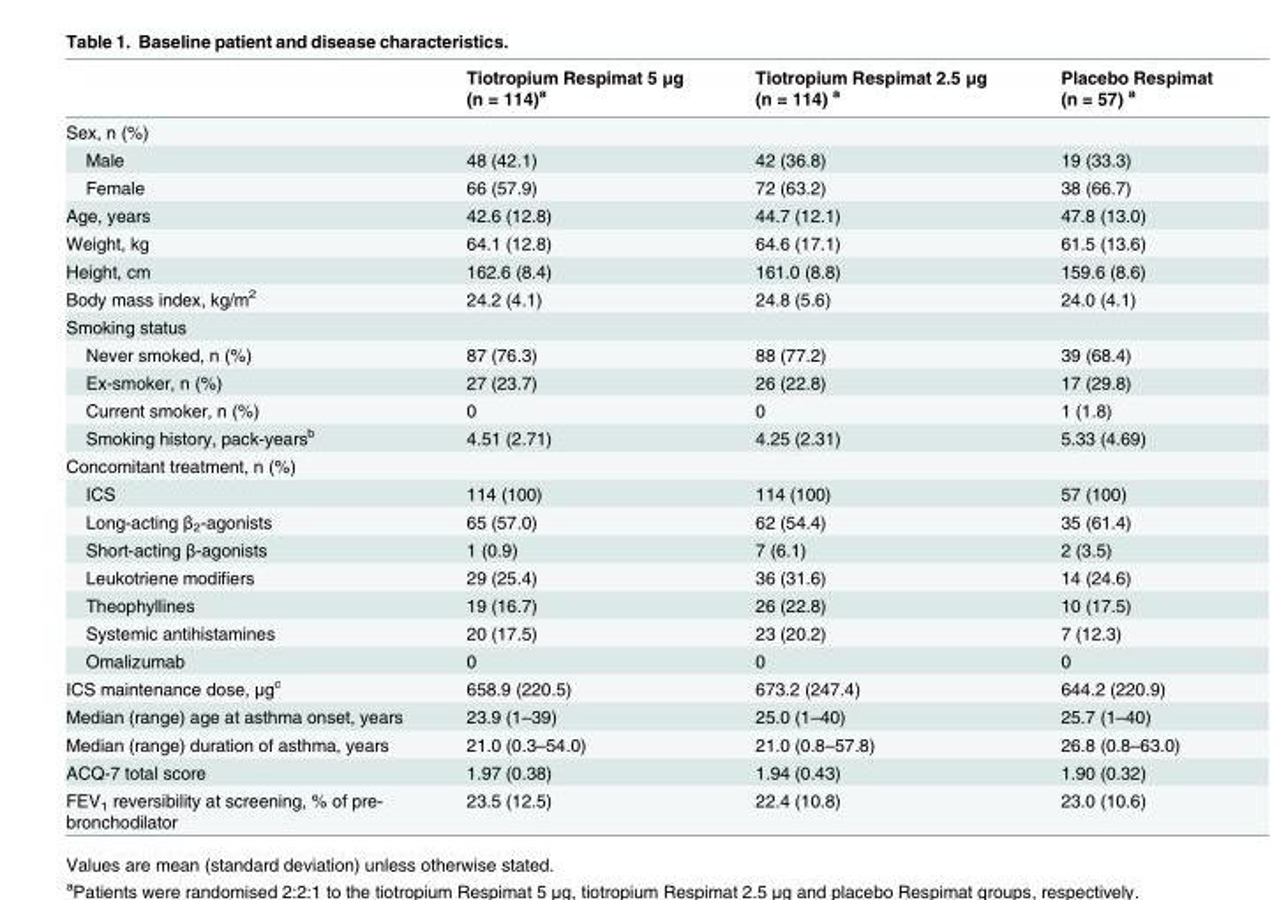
<table><thead><tr><td></td><td>Tiotropium Respimat 5 μg (n = 114)<sup>a</sup></td><td>Tiotropium Respimat 2.5 μg (n = 114) <sup>a</sup></td><td>Placebo Respimat (n = 57) <sup>a</sup></td></tr></thead><tbody><tr><td colspan="4">Sex, n (%)</td></tr><tr><td>Male</td><td>48 (42.1)</td><td>42 (36.8)</td><td>19 (33.3)</td></tr><tr><td>Female</td><td>66 (57.9)</td><td>72 (63.2)</td><td>38 (66.7)</td></tr><tr><td>Age, years</td><td>42.6 (12.8)</td><td>44.7 (12.1)</td><td>47.8 (13.0)</td></tr><tr><td>Weight, kg</td><td>64.1 (12.8)</td><td>64.6 (17.1)</td><td>61.5 (13.6)</td></tr><tr><td>Height, cm</td><td>162.6 (8.4)</td><td>161.0 (8.8)</td><td>159.6 (8.6)</td></tr><tr><td>Body mass index, kg/m<sup>2</sup></td><td>24.2 (4.1)</td><td>24.8 (5.6)</td><td>24.0 (4.1)</td></tr><tr><td colspan="4">Smoking status</td></tr><tr><td>Never smoked, n (%)</td><td>87 (76.3)</td><td>88 (77.2)</td><td>39 (68.4)</td></tr><tr><td>Ex-smoker, n (%)</td><td>27 (23.7)</td><td>26 (22.8)</td><td>17 (29.8)</td></tr><tr><td>Current smoker, n (%)</td><td>0</td><td>0</td><td>1 (1.8)</td></tr><tr><td>Smoking history, pack-years<sup>b</sup></td><td>4.51 (2.71)</td><td>4.25 (2.31)</td><td>5.33 (4.69)</td></tr><tr><td colspan="4">Concomitant treatment, n (%)</td></tr><tr><td>ICS</td><td>114 (100)</td><td>114 (100)</td><td>57 (100)</td></tr><tr><td>Long-acting β<sub>2</sub>-agonists</td><td>65 (57.0)</td><td>62 (54.4)</td><td>35 (61.4)</td></tr><tr><td>Short-acting β-agonists</td><td>1 (0.9)</td><td>7 (6.1)</td><td>2 (3.5)</td></tr><tr><td>Leukotriene modifiers</td><td>29 (25.4)</td><td>36 (31.6)</td><td>14 (24.6)</td></tr><tr><td>Theophyllines</td><td>19 (16.7)</td><td>26 (22.8)</td><td>10 (17.5)</td></tr><tr><td>Systemic antihistamines</td><td>20 (17.5)</td><td>23 (20.2)</td><td>7 (12.3)</td></tr><tr><td>Omalizumab</td><td>0</td><td>0</td><td>0</td></tr><tr><td>ICS maintenance dose, μg<sup>c</sup></td><td>658.9 (220.5)</td><td>673.2 (247.4)</td><td>644.2 (220.9)</td></tr><tr><td>Median (range) age at asthma onset, years</td><td>23.9 (1–39)</td><td>25.0 (1–40)</td><td>25.7 (1–40)</td></tr><tr><td>Median (range) duration of asthma, years</td><td>21.0 (0.3–54.0)</td><td>21.0 (0.8–57.8)</td><td>26.8 (0.8–63.0)</td></tr><tr><td>ACQ-7 total score</td><td>1.97 (0.38)</td><td>1.94 (0.43)</td><td>1.90 (0.32)</td></tr><tr><td>FEV<sub>1</sub> reversibility at screening, % of pre- bronchodilator</td><td>23.5 (12.5)</td><td>22.4 (10.8)</td><td>23.0 (10.6)</td></tr></tbody></table>